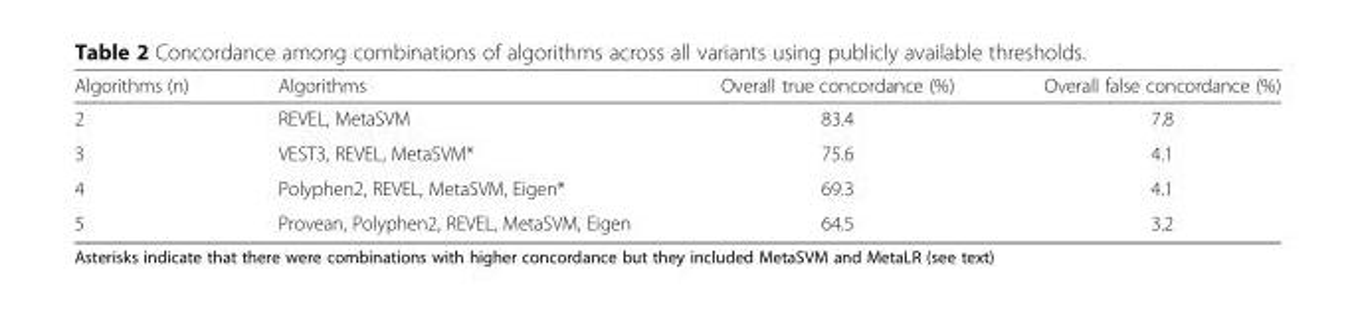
<table><thead><tr><td>Algorithms (n)</td><td>Algorithms</td><td>Overall true concordance (%)</td><td>Overall false concordance (%)</td></tr></thead><tbody><tr><td>2</td><td>REVEL, MetaSVM</td><td>83.4</td><td>7.8</td></tr><tr><td>3</td><td>VEST3, REVEL, MetaSVM*</td><td>75.6</td><td>4.1</td></tr><tr><td>4</td><td>Polyphen2, REVEL, MetaSVM, Eigen*</td><td>69.3</td><td>4.1</td></tr><tr><td>5</td><td>Provean, Polyphen2, REVEL, MetaSVM, Eigen</td><td>64.5</td><td>3.2</td></tr></tbody></table>